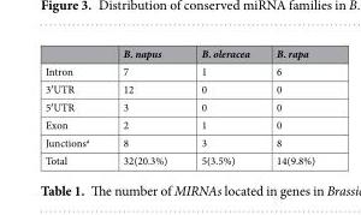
<table><thead><tr><td></td><td>B. napus</td><td>B. oleracea</td><td>B. rapa</td></tr></thead><tbody><tr><td>Intron</td><td>7</td><td>1</td><td>6</td></tr><tr><td>3′UTR</td><td>12</td><td>0</td><td>0</td></tr><tr><td>5′UTR</td><td>3</td><td>0</td><td>0</td></tr><tr><td>Exon</td><td>2</td><td>1</td><td>0</td></tr><tr><td>Junctions<sup>a</sup></td><td>8</td><td>3</td><td>8</td></tr><tr><td>Total</td><td>32(20.3%)</td><td>5(3.5%)</td><td>14(9.8%)</td></tr></tbody></table>